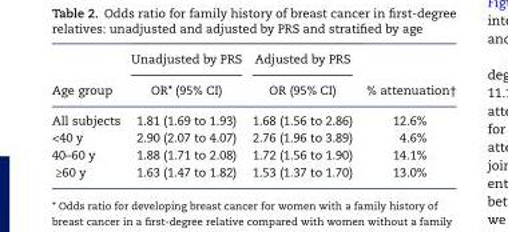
<table><thead><tr><td rowspan="2">Age group</td><td rowspan="2">Unadjusted by PRS OR* (95% CI)</td><td rowspan="2">Adjusted by PRS OR (95% CI)</td><td rowspan="2">% attenuation†</td></tr><tr></tr></thead><tbody><tr><td>All subjects</td><td>1.81 (1.69 to 1.93)</td><td>1.68 (1.56 to 2.86)</td><td>12.6%</td></tr><tr><td>&lt;40 y</td><td>2.90 (2.07 to 4.07)</td><td>2.76 (1.96 to 3.89)</td><td>4.6%</td></tr><tr><td>40–60 y</td><td>1.88 (1.71 to 2.08)</td><td>1.72 (1.56 to 1.90)</td><td>14.1%</td></tr><tr><td>≥60 y</td><td>1.63 (1.47 to 1.82)</td><td>1.53 (1.37 to 1.70)</td><td>13.0%</td></tr></tbody></table>